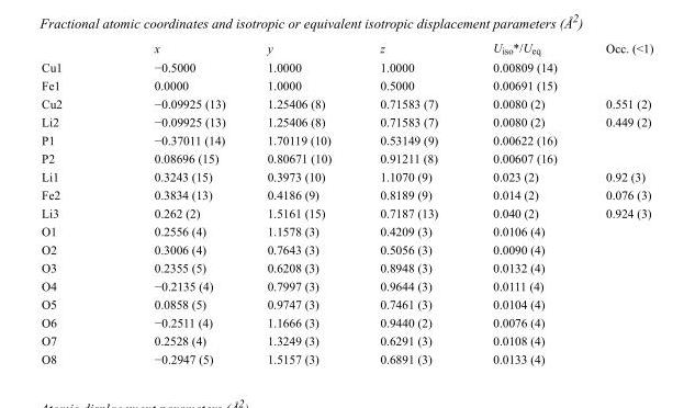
<table><thead><tr><td></td><td>x</td><td>y</td><td>z</td><td>U<sub>iso</sub>*/U<sub>eq</sub></td><td>Occ. (&lt;1)</td></tr></thead><tbody><tr><td>Cu1</td><td>−0.5000</td><td>1.0000</td><td>1.0000</td><td>0.00809 (14)</td><td></td></tr><tr><td>Fe1</td><td>0.0000</td><td>1.0000</td><td>0.5000</td><td>0.00691 (15)</td><td></td></tr><tr><td>Cu2</td><td>−0.09925 (13)</td><td>1.25406 (8)</td><td>0.71583 (7)</td><td>0.0080 (2)</td><td>0.551 (2)</td></tr><tr><td>Li2</td><td>−0.09925 (13)</td><td>1.25406 (8)</td><td>0.71583 (7)</td><td>0.0080 (2)</td><td>0.449 (2)</td></tr><tr><td>P1</td><td>−0.37011 (14)</td><td>1.70119 (10)</td><td>0.53149 (9)</td><td>0.00622 (16)</td><td></td></tr><tr><td>P2</td><td>0.08696 (15)</td><td>0.80671 (10)</td><td>0.91211 (8)</td><td>0.00607 (16)</td><td></td></tr><tr><td>Li1</td><td>0.3243 (15)</td><td>0.3973 (10)</td><td>1.1070 (9)</td><td>0.023 (2)</td><td>0.92 (3)</td></tr><tr><td>Fe2</td><td>0.3834 (13)</td><td>0.4186 (9)</td><td>0.8189 (9)</td><td>0.014 (2)</td><td>0.076 (3)</td></tr><tr><td>Li3</td><td>0.262 (2)</td><td>1.5161 (15)</td><td>0.7187 (13)</td><td>0.040 (2)</td><td>0.924 (3)</td></tr><tr><td>O1</td><td>0.2556 (4)</td><td>1.1578 (3)</td><td>0.4209 (3)</td><td>0.0106 (4)</td><td></td></tr><tr><td>O2</td><td>0.3006 (4)</td><td>0.7643 (3)</td><td>0.5056 (3)</td><td>0.0090 (4)</td><td></td></tr><tr><td>O3</td><td>0.2355 (5)</td><td>0.6208 (3)</td><td>0.8948 (3)</td><td>0.0132 (4)</td><td></td></tr><tr><td>O4</td><td>−0.2135 (4)</td><td>0.7997 (3)</td><td>0.9644 (3)</td><td>0.0111 (4)</td><td></td></tr><tr><td>O5</td><td>0.0858 (5)</td><td>0.9747 (3)</td><td>0.7461 (3)</td><td>0.0104 (4)</td><td></td></tr><tr><td>O6</td><td>−0.2511 (4)</td><td>1.1666 (3)</td><td>0.9440 (2)</td><td>0.0076 (4)</td><td></td></tr><tr><td>O7</td><td>0.2528 (4)</td><td>1.3249 (3)</td><td>0.6291 (3)</td><td>0.0108 (4)</td><td></td></tr><tr><td>O8</td><td>−0.2947 (5)</td><td>1.5157 (3)</td><td>0.6891 (3)</td><td>0.0133 (4)</td><td></td></tr></tbody></table>